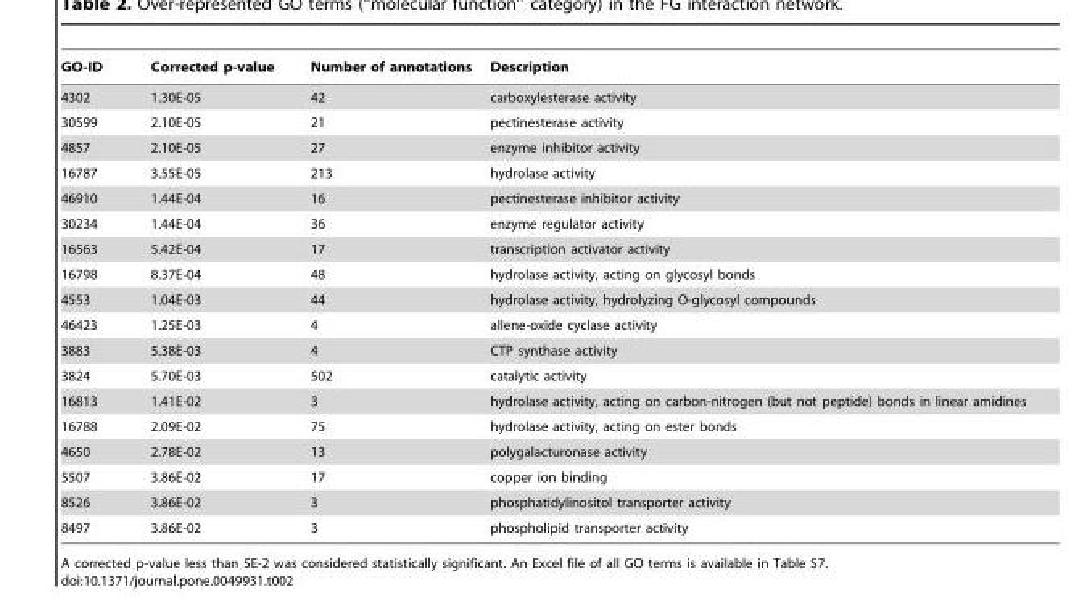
<table><thead><tr><td>GO-ID</td><td>Corrected p-value</td><td>Number of annotations</td><td>Description</td></tr></thead><tbody><tr><td>4302</td><td>1.30E-05</td><td>42</td><td>carboxylesterase activity</td></tr><tr><td>30599</td><td>2.10E-05</td><td>21</td><td>pectinesterase activity</td></tr><tr><td>4857</td><td>2.10E-05</td><td>27</td><td>enzyme inhibitor activity</td></tr><tr><td>16787</td><td>3.55E-05</td><td>213</td><td>hydrolase activity</td></tr><tr><td>46910</td><td>1.44E-04</td><td>16</td><td>pectinesterase inhibitor activity</td></tr><tr><td>30234</td><td>1.44E-04</td><td>36</td><td>enzyme regulator activity</td></tr><tr><td>16563</td><td>5.42E-04</td><td>17</td><td>transcription activator activity</td></tr><tr><td>16798</td><td>8.37E-04</td><td>48</td><td>hydrolase activity, acting on glycosyl bonds</td></tr><tr><td>4553</td><td>1.04E-03</td><td>44</td><td>hydrolase activity, hydrolyzing O-glycosyl compounds</td></tr><tr><td>46423</td><td>1.25E-03</td><td>4</td><td>allene-oxide cyclase activity</td></tr><tr><td>3883</td><td>5.38E-03</td><td>4</td><td>CTP synthase activity</td></tr><tr><td>3824</td><td>5.70E-03</td><td>502</td><td>catalytic activity</td></tr><tr><td>16813</td><td>1.41E-02</td><td>3</td><td>hydrolase activity, acting on carbon-nitrogen (but not peptide) bonds in linear amidines</td></tr><tr><td>16788</td><td>2.09E-02</td><td>75</td><td>hydrolase activity, acting on ester bonds</td></tr><tr><td>4650</td><td>2.78E-02</td><td>13</td><td>polygalacturonase activity</td></tr><tr><td>5507</td><td>3.86E-02</td><td>17</td><td>copper ion binding</td></tr><tr><td>8526</td><td>3.86E-02</td><td>3</td><td>phosphatidylinositol transporter activity</td></tr><tr><td>8497</td><td>3.86E-02</td><td>3</td><td>phospholipid transporter activity</td></tr></tbody></table>